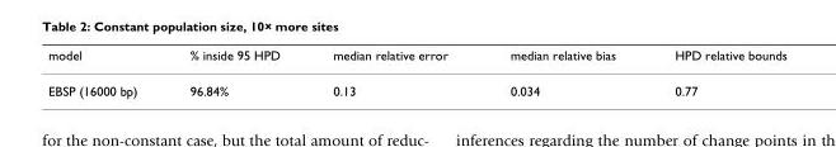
<table><thead><tr><td>model</td><td>% inside 95 HPD</td><td>median relative error</td><td>median relative bias</td><td>HPD relative bounds</td></tr></thead><tbody><tr><td>EBSP (16000 bp)</td><td>96.84%</td><td>0.13</td><td>0.034</td><td>0.77</td></tr></tbody></table>